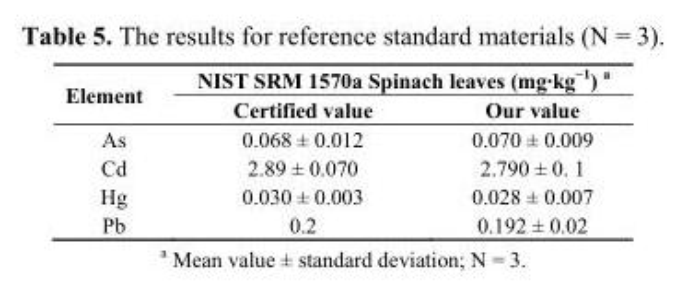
<table><thead><tr><td rowspan="2">Element</td><td colspan="2">NIST SRM 1570a Spinach leaves (mg·kg<sup>−1</sup>) <sup>a</sup></td></tr><tr><td>Certified value</td><td>Our value</td></tr></thead><tbody><tr><td>As</td><td>0.068 ± 0.012</td><td>0.070 ± 0.009</td></tr><tr><td>Cd</td><td>2.89 ± 0.070</td><td>2.790 ± 0. 1</td></tr><tr><td>Hg</td><td>0.030 ± 0.003</td><td>0.028 ± 0.007</td></tr><tr><td>Pb</td><td>0.2</td><td>0.192 ± 0.02</td></tr></tbody></table>